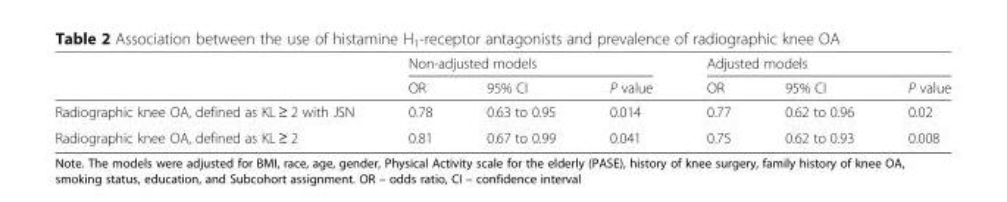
<table><thead><tr><td rowspan="2"></td><td colspan="3">Non-adjusted models</td><td colspan="3">Adjusted models</td></tr><tr><td>OR</td><td>95% CI</td><td>P value</td><td>OR</td><td>95% CI</td><td>P value</td></tr></thead><tbody><tr><td>Radiographic knee OA, defined as KL ≥ 2 with JSN</td><td>0.78</td><td>0.63 to 0.95</td><td>0.014</td><td>0.77</td><td>0.62 to 0.96</td><td>0.02</td></tr><tr><td>Radiographic knee OA, defined as KL ≥ 2</td><td>0.81</td><td>0.67 to 0.99</td><td>0.041</td><td>0.75</td><td>0.62 to 0.93</td><td>0.008</td></tr></tbody></table>